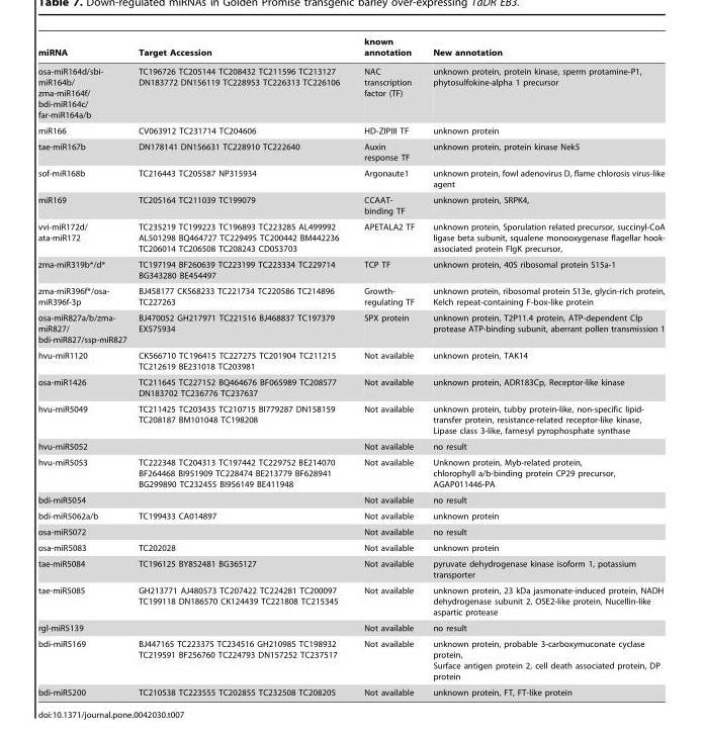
<table><thead><tr><td>miRNA</td><td>Target Accession</td><td>known annotation</td><td>New annotation</td></tr></thead><tbody><tr><td>osa-miR164d/sbi- miR164b/ zma-miR164f/ bdi-miR164c/ far-miR164a/b</td><td>TC196726 TC205144 TC208432 TC211596 TC213127 DN183772 DN156119 TC228953 TC226313 TC226106</td><td>NAC transcription factor (TF)</td><td>unknown protein, protein kinase, sperm protamine-P1, phytosulfokine-alpha 1 precursor</td></tr><tr><td>miR166</td><td>CV063912 TC231714 TC204606</td><td>HD-ZIPIII TF</td><td>unknown protein</td></tr><tr><td>tae-miR167b</td><td>DN178141 DN156631 TC228910 TC222640</td><td>Auxin response TF</td><td>unknown protein, protein kinase Nek5</td></tr><tr><td>sof-miR168b</td><td>TC216443 TC205587 NP315934</td><td>Argonaute1</td><td>unknown protein, fowl adenovirus D, flame chlorosis virus-like agent</td></tr><tr><td>miR169</td><td>TC205164 TC211039 TC199079</td><td>CCAAT- binding TF</td><td>unknown protein, SRPK4,</td></tr><tr><td>vvi-miR172d/ ata-miR172</td><td>TC235219 TC199223 TC196893 TC223285 AL499992 AL501298 BQ464727 TC229495 TC200442 BM442236 TC206014 TC206508 TC208243 CD053703</td><td>APETALA2 TF</td><td>unknown protein, Sporulation related precursor, succinyl-CoA ligase beta subunit, squalene monooxygenase flagellar hook- associated protein FlgK precursor,</td></tr><tr><td>zma-miR319b*/d*</td><td>TC197194 BF260639 TC223199 TC223334 TC229714 BG343280 BE454497</td><td>TCP TF</td><td>unknown protein, 40S ribosomal protein S15a-1</td></tr><tr><td>zma-miR396f*/osa- miR396f-3p</td><td>BJ458177 CK568233 TC221734 TC220586 TC214896 TC227263</td><td>Growth- regulating TF</td><td>unknown protein, ribosomal protein S13e, glycin-rich protein, Kelch repeat-containing F-box-like protein</td></tr><tr><td>osa-miR827a/b/zma- miR827/ bdi-miR827/ssp-miR827</td><td>BJ470052 GH217971 TC221516 BJ468837 TC197379 EX575934</td><td>SPX protein</td><td>unknown protein, T2P11.4 protein, ATP-dependent Clp protease ATP-binding subunit, aberrant pollen transmission 1</td></tr><tr><td>hvu-miR1120</td><td>CK566710 TC196415 TC227275 TC201904 TC211215 TC212619 BE231018 TC203981</td><td>Not available</td><td>unknown protein, TAK14</td></tr><tr><td>osa-miR1426</td><td>TC211645 TC227152 BQ464676 BF065989 TC208577 DN183702 TC236776 TC237637</td><td>Not available</td><td>unknown protein, ADR183Cp, Receptor-like kinase</td></tr><tr><td>hvu-miR5049</td><td>TC211425 TC203435 TC210715 BI779287 DN158159 TC208187 BM101048 TC198208</td><td>Not available</td><td>unknown protein, tubby protein-like, non-specific lipid- transfer protein, resistance-related receptor-like kinase, Lipase class 3-like, farnesyl pyrophosphate synthase</td></tr><tr><td>hvu-miR5052</td><td></td><td>Not available</td><td>no result</td></tr><tr><td>hvu-miR5053</td><td>TC222348 TC204313 TC197442 TC229752 BE214070 BF264468 BI951909 TC228474 BE213779 BF628941 BG299890 TC232455 BI956149 BE411948</td><td>Not available</td><td>Unknown protein, Myb-related protein, chlorophyll a/b-binding protein CP29 precursor, AGAP011446-PA</td></tr><tr><td>bdi-miR5054</td><td></td><td>Not available</td><td>no result</td></tr><tr><td>bdi-miR5062a/b</td><td>TC199433 CA014897</td><td>Not available</td><td>unknown protein</td></tr><tr><td>osa-miR5072</td><td></td><td>Not available</td><td>no result</td></tr><tr><td>osa-miR5083</td><td>TC202028</td><td>Not available</td><td>unknown protein</td></tr><tr><td>tae-miR5084</td><td>TC196125 BY852481 BG365127</td><td>Not available</td><td>pyruvate dehydrogenase kinase isoform 1, potassium transporter</td></tr><tr><td>tae-miR5085</td><td>GH213771 AJ480573 TC207422 TC224281 TC200097 TC199118 DN186570 CK124439 TC221808 TC215345</td><td>Not available</td><td>unknown protein, 23 kDa jasmonate-induced protein, NADH dehydrogenase subunit 2, OSE2-like protein, Nucellin-like aspartic protease</td></tr><tr><td>rgl-miR5139</td><td></td><td>Not available</td><td>no result</td></tr><tr><td>bdi-miR5169</td><td>BJ447165 TC223375 TC234516 GH210985 TC198932 TC219591 BF256760 TC224793 DN157252 TC237517</td><td>Not available</td><td>unknown protein, probable 3-carboxymuconate cyclase protein, Surface antigen protein 2, cell death associated protein, DP protein</td></tr><tr><td>bdi-miR5200</td><td>TC210538 TC223555 TC202855 TC232508 TC208205</td><td>Not available</td><td>unknown protein, FT, FT-like protein</td></tr></tbody></table>